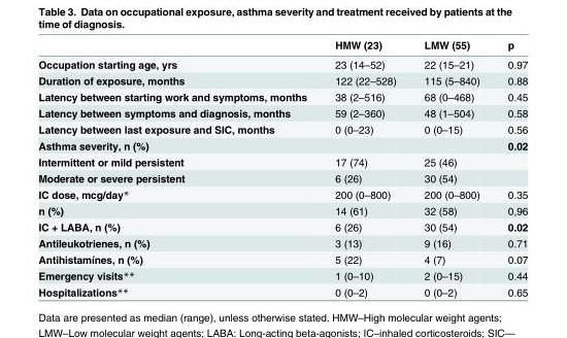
<table><thead><tr><td></td><td>HMW (23)</td><td>LMW (55)</td><td>p</td></tr></thead><tbody><tr><td>Occupation starting age, yrs</td><td>23 (14–52)</td><td>22 (15–21)</td><td>0.97</td></tr><tr><td>Duration of exposure, months</td><td>122 (22–528)</td><td>115 (5–840)</td><td>0.88</td></tr><tr><td>Latency between starting work and symptoms, months</td><td>38 (2–516)</td><td>68 (0–468)</td><td>0.45</td></tr><tr><td>Latency between symptoms and diagnosis, months</td><td>59 (2–360)</td><td>48 (1–504)</td><td>0.58</td></tr><tr><td>Latency between last exposure and SIC, months</td><td>0 (0–23)</td><td>0 (0–15)</td><td>0.56</td></tr><tr><td>Asthma severity, n (%)</td><td></td><td></td><td>0.02</td></tr><tr><td>Intermittent or mild persistent</td><td>17 (74)</td><td>25 (46)</td><td></td></tr><tr><td>Moderate or severe persistent</td><td>6 (26)</td><td>30 (54)</td><td></td></tr><tr><td>IC dose, mcg/day*</td><td>200 (0–800)</td><td>200 (0–800)</td><td>0.35</td></tr><tr><td>n (%)</td><td>14 (61)</td><td>32 (58)</td><td>0,96</td></tr><tr><td>IC + LABA, n (%)</td><td>6 (26)</td><td>30 (54)</td><td>0.02</td></tr><tr><td>Antileukotrienes, n (%)</td><td>3 (13)</td><td>9 (16)</td><td>0.71</td></tr><tr><td>Antihistamínes, n (%)</td><td>5 (22)</td><td>4 (7)</td><td>0.07</td></tr><tr><td>Emergency visits**</td><td>1 (0–10)</td><td>2 (0–15)</td><td>0.44</td></tr><tr><td>Hospitalizations**</td><td>0 (0–2)</td><td>0 (0–2)</td><td>0.65</td></tr></tbody></table>